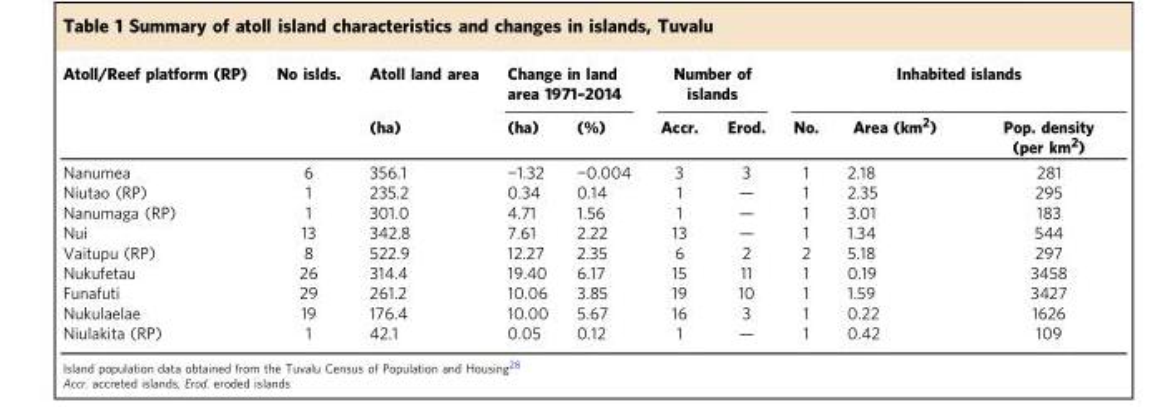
<table><thead><tr><td rowspan="2">Atoll/Reef platform (RP)</td><td rowspan="2">No islds.</td><td rowspan="2">Atoll land area (ha)</td><td colspan="2">Change in land area 1971–2014</td><td colspan="2">Number of islands</td><td colspan="3">Inhabited islands</td></tr><tr><td>(ha)</td><td>(%)</td><td>Accr.</td><td>Erod.</td><td>No.</td><td>Area (km<sup>2</sup>)</td><td>Pop. density (per km<sup>2</sup>)</td></tr></thead><tbody><tr><td>Nanumea</td><td>6</td><td>356.1</td><td>−1.32</td><td>−0.004</td><td>3</td><td>3</td><td>1</td><td>2.18</td><td>281</td></tr><tr><td>Niutao (RP)</td><td>1</td><td>235.2</td><td>0.34</td><td>0.14</td><td>1</td><td>—</td><td>1</td><td>2.35</td><td>295</td></tr><tr><td>Nanumaga (RP)</td><td>1</td><td>301.0</td><td>4.71</td><td>1.56</td><td>1</td><td>—</td><td>1</td><td>3.01</td><td>183</td></tr><tr><td>Nui</td><td>13</td><td>342.8</td><td>7.61</td><td>2.22</td><td>13</td><td>—</td><td>1</td><td>1.34</td><td>544</td></tr><tr><td>Vaitupu (RP)</td><td>8</td><td>522.9</td><td>12.27</td><td>2.35</td><td>6</td><td>2</td><td>2</td><td>5.18</td><td>297</td></tr><tr><td>Nukufetau</td><td>26</td><td>314.4</td><td>19.40</td><td>6.17</td><td>15</td><td>11</td><td>1</td><td>0.19</td><td>3458</td></tr><tr><td>Funafuti</td><td>29</td><td>261.2</td><td>10.06</td><td>3.85</td><td>19</td><td>10</td><td>1</td><td>1.59</td><td>3427</td></tr><tr><td>Nukulaelae</td><td>19</td><td>176.4</td><td>10.00</td><td>5.67</td><td>16</td><td>3</td><td>1</td><td>0.22</td><td>1626</td></tr><tr><td>Niulakita (RP)</td><td>1</td><td>42.1</td><td>0.05</td><td>0.12</td><td>1</td><td>—</td><td>1</td><td>0.42</td><td>109</td></tr></tbody></table>